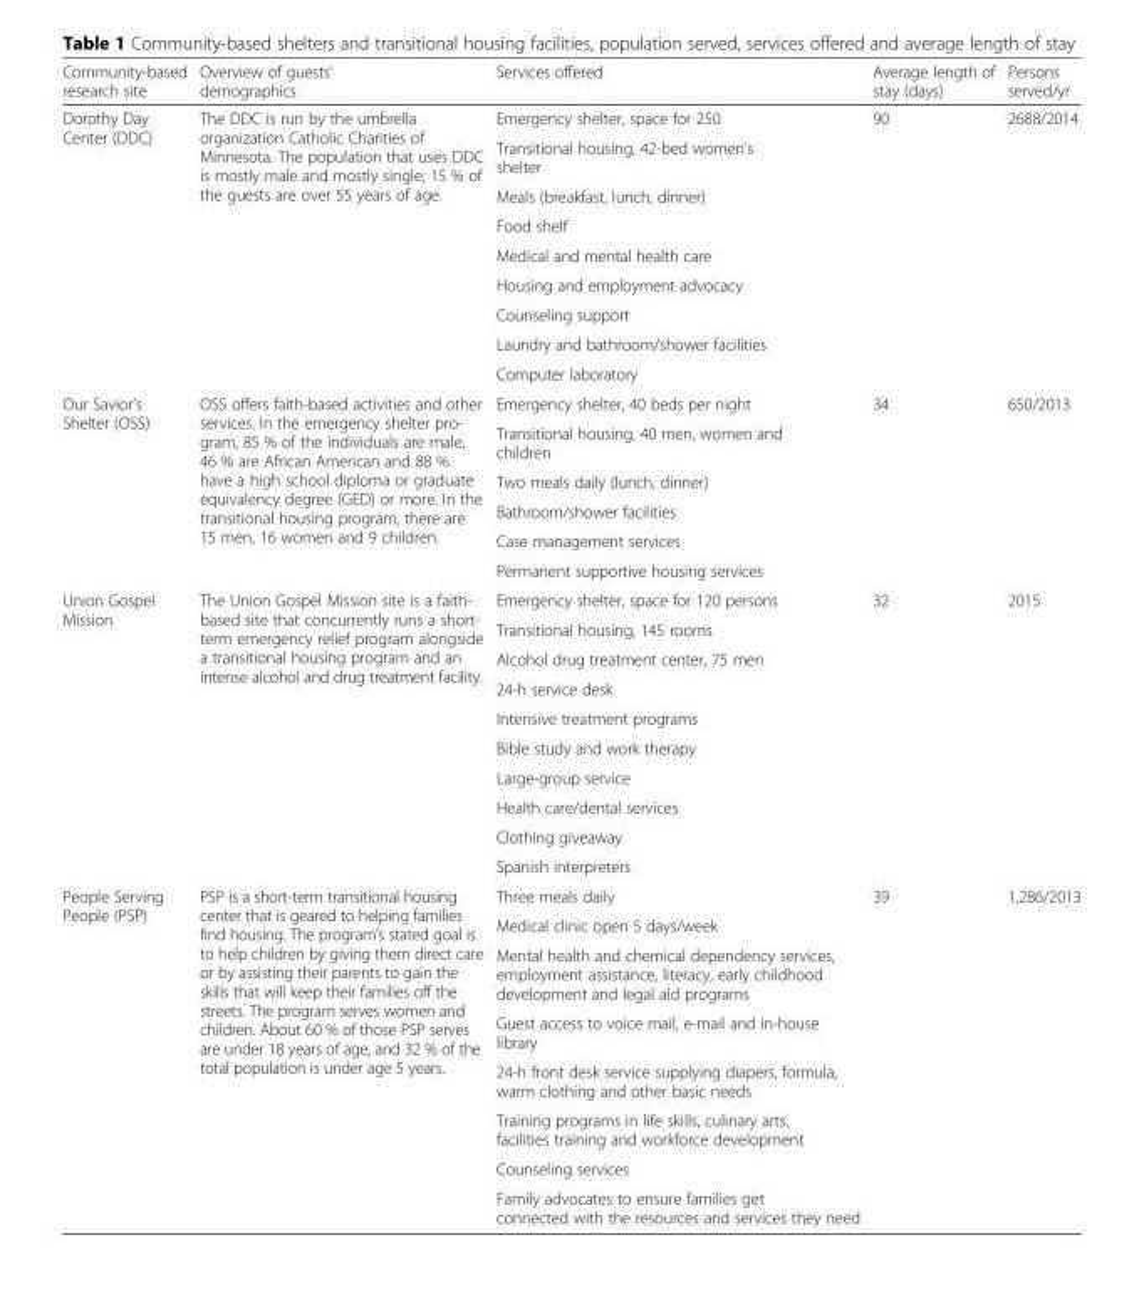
<table><thead><tr><td>Community-based research site</td><td>Overview of guests’ demographics</td><td>Services offered</td><td>Average length of stay (days)</td><td>Persons served/yr</td></tr></thead><tbody><tr><td rowspan="9">Dorothy Day Center (DDC)</td><td rowspan="9">The DDC is run by the umbrella organization Catholic Charities of Minnesota. The population that uses DDC is mostly male and mostly single; 15 % of the guests are over 55 years of age.</td><td>Emergency shelter, space for 250</td><td rowspan="9">90</td><td rowspan="9">2688/2014</td></tr><tr><td>Transitional housing, 42-bed women’s shelter</td></tr><tr><td>Meals (breakfast, lunch, dinner)</td></tr><tr><td>Food shelf</td></tr><tr><td>Medical and mental health care</td></tr><tr><td>Housing and employment advocacy</td></tr><tr><td>Counseling support</td></tr><tr><td>Laundry and bathroom/shower facilities</td></tr><tr><td>Computer laboratory</td></tr><tr><td rowspan="6">Our Savior’s Shelter (OSS)</td><td rowspan="6">OSS offers faith-based activities and other services. In the emergency shelter pro- gram, 85 % of the individuals are male, 46 % are African American and 88 % have a high school diploma or graduate equivalency degree (GED) or more. In the transitional housing program, there are 15 men, 16 women and 9 children.</td><td>Emergency shelter, 40 beds per night</td><td rowspan="6">34</td><td rowspan="6">650/2013</td></tr><tr><td>Transitional housing, 40 men, women and children</td></tr><tr><td>Two meals daily (lunch, dinner)</td></tr><tr><td>Bathroom/shower facilities</td></tr><tr><td>Case management services</td></tr><tr><td>Permanent supportive housing services</td></tr><tr><td rowspan="10">Union Gospel Mission</td><td rowspan="10">The Union Gospel Mission site is a faith- based site that concurrently runs a short- term emergency relief program alongside a transitional housing program and an intense alcohol and drug treatment facility.</td><td>Emergency shelter, space for 120 persons</td><td rowspan="10">32</td><td rowspan="10">2015</td></tr><tr><td>Transitional housing, 145 rooms</td></tr><tr><td>Alcohol drug treatment center, 75 men</td></tr><tr><td>24-h service desk</td></tr><tr><td>Intensive treatment programs</td></tr><tr><td>Bible study and work therapy</td></tr><tr><td>Large-group service</td></tr><tr><td>Health care/dental services</td></tr><tr><td>Clothing giveaway</td></tr><tr><td>Spanish interpreters</td></tr><tr><td rowspan="8">People Serving People (PSP)</td><td rowspan="8">PSP is a short-term transitional housing center that is geared to helping families find housing. The program’s stated goal is to help children by giving them direct care or by assisting their parents to gain the skills that will keep their families off the streets. The program serves women and children. About 60 % of those PSP serves are under 18 years of age, and 32 % of the total population is under age 5 years.</td><td>Three meals daily</td><td rowspan="8">39</td><td rowspan="8">1,286/2013</td></tr><tr><td>Medical clinic open 5 days/week</td></tr><tr><td>Mental health and chemical dependency services, employment assistance, literacy, early childhood development and legal aid programs</td></tr><tr><td>Guest access to voice mail, e-mail and in-house library</td></tr><tr><td>24-h front desk service supplying diapers, formula, warm clothing and other basic needs</td></tr><tr><td>Training programs in life skills, culinary arts, facilities training and workforce development</td></tr><tr><td>Counseling services</td></tr><tr><td>Family advocates to ensure families get connected with the resources and services they need</td></tr></tbody></table>